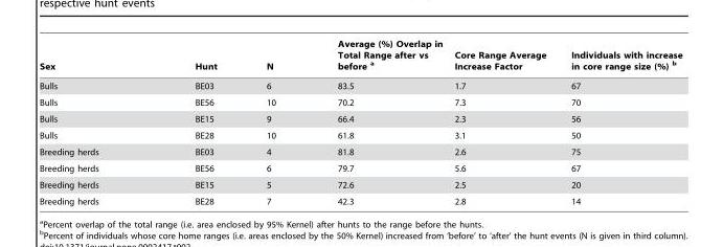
<table><thead><tr><td>Sex</td><td>Hunt</td><td>N</td><td>Average (%) Overlap in Total Range after vs before a</td><td>Core Range Average Increase Factor</td><td>Individuals with increase in core range size (%) b</td></tr></thead><tbody><tr><td>Bulls</td><td>BE03</td><td>6</td><td>83.5</td><td>1.7</td><td>67</td></tr><tr><td>Bulls</td><td>BE56</td><td>10</td><td>70.2</td><td>7.3</td><td>70</td></tr><tr><td>Bulls</td><td>BE15</td><td>9</td><td>66.4</td><td>2.3</td><td>56</td></tr><tr><td>Bulls</td><td>BE28</td><td>10</td><td>61.8</td><td>3.1</td><td>50</td></tr><tr><td>Breeding herds</td><td>BE03</td><td>4</td><td>81.8</td><td>2.6</td><td>75</td></tr><tr><td>Breeding herds</td><td>BE56</td><td>6</td><td>79.7</td><td>5.6</td><td>67</td></tr><tr><td>Breeding herds</td><td>BE15</td><td>5</td><td>72.6</td><td>2.5</td><td>20</td></tr><tr><td>Breeding herds</td><td>BE28</td><td>7</td><td>42.3</td><td>2.8</td><td>14</td></tr></tbody></table>